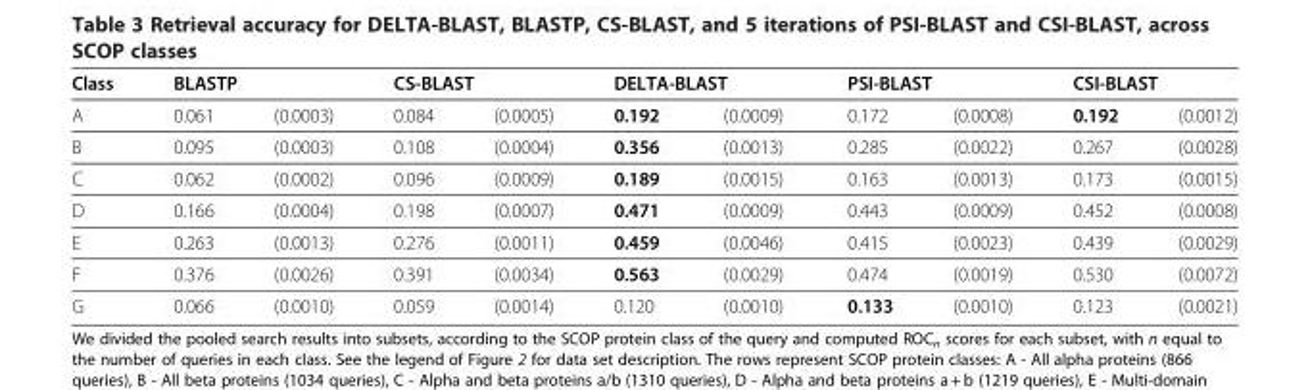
<table><thead><tr><td rowspan="2">Class A</td><td colspan="2">BLASTP</td><td colspan="2">CS-BLAST</td><td colspan="2">DELTA-BLAST</td><td colspan="2">PSI-BLAST</td><td colspan="2">CSI-BLAST</td></tr><tr><td>0.061</td><td>(0.0003)</td><td>0.084</td><td>(0.0005)</td><td>0.192</td><td>(0.0009)</td><td>0.172</td><td>(0.0008)</td><td>0.192</td><td>(0.0012)</td></tr></thead><tbody><tr><td>B</td><td>0.095</td><td>(0.0003)</td><td>0.108</td><td>(0.0004)</td><td>0.356</td><td>(0.0013)</td><td>0.285</td><td>(0.0022)</td><td>0.267</td><td>(0.0028)</td></tr><tr><td>C</td><td>0.062</td><td>(0.0002)</td><td>0.096</td><td>(0.0009)</td><td>0.189</td><td>(0.0015)</td><td>0.163</td><td>(0.0013)</td><td>0.173</td><td>(0.0015)</td></tr><tr><td>D</td><td>0.166</td><td>(0.0004)</td><td>0.198</td><td>(0.0007)</td><td>0.471</td><td>(0.0009)</td><td>0.443</td><td>(0.0009)</td><td>0.452</td><td>(0.0008)</td></tr><tr><td>E</td><td>0.263</td><td>(0.0013)</td><td>0.276</td><td>(0.0011)</td><td>0.459</td><td>(0.0046)</td><td>0.415</td><td>(0.0023)</td><td>0.439</td><td>(0.0029)</td></tr><tr><td>F</td><td>0.376</td><td>(0.0026)</td><td>0.391</td><td>(0.0034)</td><td>0.563</td><td>(0.0029)</td><td>0.474</td><td>(0.0019)</td><td>0.530</td><td>(0.0072)</td></tr><tr><td>G</td><td>0.066</td><td>(0.0010)</td><td>0.059</td><td>(0.0014)</td><td>0.120</td><td>(0.0010)</td><td>0.133</td><td>(0.0010)</td><td>0.123</td><td>(0.0021)</td></tr></tbody></table>